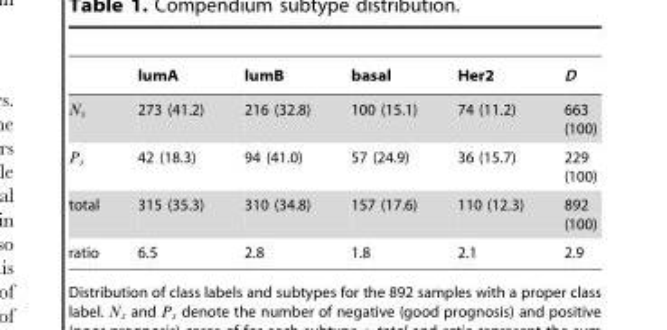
<table><thead><tr><td></td><td>lumA</td><td>lumB</td><td>basal</td><td>Her2</td><td>D</td></tr></thead><tbody><tr><td>Ns</td><td>273 (41.2)</td><td>216 (32.8)</td><td>100 (15.1)</td><td>74 (11.2)</td><td>663 (100)</td></tr><tr><td>Ps</td><td>42 (18.3)</td><td>94 (41.0)</td><td>57 (24.9)</td><td>36 (15.7)</td><td>229 (100)</td></tr><tr><td>total</td><td>315 (35.3)</td><td>310 (34.8)</td><td>157 (17.6)</td><td>110 (12.3)</td><td>892 (100)</td></tr><tr><td>ratio</td><td>6.5</td><td>2.8</td><td>1.8</td><td>2.1</td><td>2.9</td></tr></tbody></table>